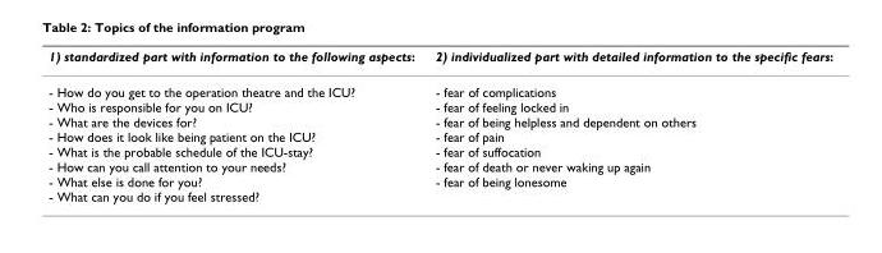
<table><thead><tr><td>1) standardized part with information to the following aspects:</td><td>2) individualized part with detailed information to the specific fears:</td></tr></thead><tbody><tr><td>- How do you get to the operation theatre and the ICU? - Who is responsible for you on ICU? - What are the devices for? - How does it look like being patient on the ICU? - What is the probable schedule of the ICU-stay? - How can you call attention to your needs? - What else is done for you? - What can you do if you feel stressed?</td><td>- fear of complications - fear of feeling locked in - fear of being helpless and dependent on others - fear of pain - fear of suffocation - fear of death or never waking up again - fear of being lonesome</td></tr></tbody></table>